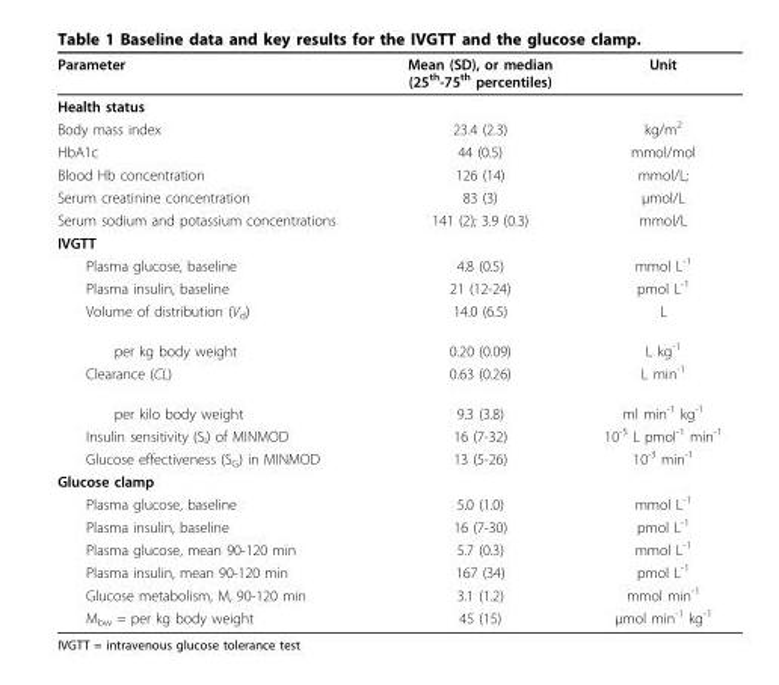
<table><thead><tr><td>Parameter</td><td>Mean (SD), or median (25<sup>th</sup>-75<sup>th</sup> percentiles)</td><td>Unit</td></tr></thead><tbody><tr><td colspan="3">Health status</td></tr><tr><td>Body mass index</td><td>23.4 (2.3)</td><td>kg/m<sup>2</sup></td></tr><tr><td>HbA1c</td><td>44 (0.5)</td><td>mmol/mol</td></tr><tr><td>Blood Hb concentration</td><td>126 (14)</td><td>mmol/L;</td></tr><tr><td>Serum creatinine concentration</td><td>83 (3)</td><td>μmol/L</td></tr><tr><td>Serum sodium and potassium concentrations</td><td>141 (2); 3.9 (0.3)</td><td>mmol/L</td></tr><tr><td colspan="3">IVGTT</td></tr><tr><td>Plasma glucose, baseline</td><td>4.8 (0.5)</td><td>mmol L<sup>-1</sup></td></tr><tr><td>Plasma insulin, baseline</td><td>21 (12-24)</td><td>pmol L<sup>-1</sup></td></tr><tr><td>Volume of distribution (V<sub>d</sub>)</td><td>14.0 (6.5)</td><td>L</td></tr><tr><td>per kg body weight</td><td>0.20 (0.09)</td><td>L kg<sup>-1</sup></td></tr><tr><td>Clearance (CL)</td><td>0.63 (0.26)</td><td>L min<sup>-1</sup></td></tr><tr><td>per kilo body weight</td><td>9.3 (3.8)</td><td>ml min<sup>-1</sup> kg<sup>-1</sup></td></tr><tr><td>Insulin sensitivity (S<sub>I</sub>) of MINMOD</td><td>16 (7-32)</td><td>10<sup>-5</sup> L pmol<sup>-1</sup> min<sup>-1</sup></td></tr><tr><td>Glucose effectiveness (S<sub>G</sub>) in MINMOD</td><td>13 (5-26)</td><td>10<sup>-3</sup> min<sup>-1</sup></td></tr><tr><td colspan="3">Glucose clamp</td></tr><tr><td>Plasma glucose, baseline</td><td>5.0 (1.0)</td><td>mmol L<sup>-1</sup></td></tr><tr><td>Plasma insulin, baseline</td><td>16 (7-30)</td><td>pmol L<sup>-1</sup></td></tr><tr><td>Plasma glucose, mean 90-120 min</td><td>5.7 (0.3)</td><td>mmol L<sup>-1</sup></td></tr><tr><td>Plasma insulin, mean 90-120 min</td><td>167 (34)</td><td>pmol L<sup>-1</sup></td></tr><tr><td>Glucose metabolism, M, 90-120 min</td><td>3.1 (1.2)</td><td>mmol min<sup>-1</sup></td></tr><tr><td>M<sub>bw</sub> = per kg body weight</td><td>45 (15)</td><td>μmol min<sup>-1</sup> kg<sup>-1</sup></td></tr></tbody></table>